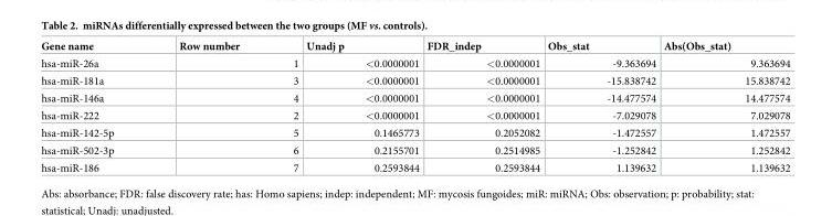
<table><thead><tr><td>Gene name</td><td>Row number</td><td>Unadj p</td><td>FDR_indep</td><td>Obs_stat</td><td>Abs(Obs_stat)</td></tr></thead><tbody><tr><td>hsa-miR-26a</td><td>1</td><td>&lt;0.0000001</td><td>&lt;0.0000001</td><td>-9.363694</td><td>9.363694</td></tr><tr><td>hsa-miR-181a</td><td>3</td><td>&lt;0.0000001</td><td>&lt;0.0000001</td><td>-15.838742</td><td>15.838742</td></tr><tr><td>hsa-miR-146a</td><td>4</td><td>&lt;0.0000001</td><td>&lt;0.0000001</td><td>-14.477574</td><td>14.477574</td></tr><tr><td>hsa-miR-222</td><td>2</td><td>&lt;0.0000001</td><td>&lt;0.0000001</td><td>-7.029078</td><td>7.029078</td></tr><tr><td>hsa-miR-142-5p</td><td>5</td><td>0.1465773</td><td>0.2052082</td><td>-1.472557</td><td>1.472557</td></tr><tr><td>hsa-miR-502-3p</td><td>6</td><td>0.2155701</td><td>0.2514985</td><td>-1.252842</td><td>1.252842</td></tr><tr><td>hsa-miR-186</td><td>7</td><td>0.2593844</td><td>0.2593844</td><td>1.139632</td><td>1.139632</td></tr></tbody></table>